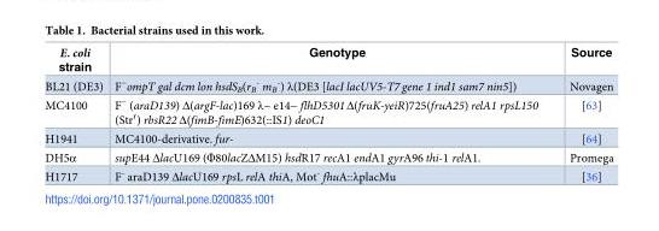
<table><thead><tr><td>E. coli strain</td><td>Genotype</td><td>Source</td></tr></thead><tbody><tr><td>BL21 (DE3)</td><td>F<sup>−</sup>ompT gal dcm lon hsdS<sub>B</sub>(r<sub>B</sub> <sup>-</sup> m<sub>B</sub> <sup>-</sup>) λ(DE3 [lacI lacUV5-T7 gene 1 ind1 sam7 nin5])</td><td>Novagen</td></tr><tr><td>MC4100</td><td>F<sup>−</sup> (araD139) Δ(argF-lac)169 λ− e14− flhD5301Δ(fruK-yeiR)725(fruA25) relA1 rpsL150 (Str<sup>r</sup>) rbsR22 Δ(fimB-fimE)632(::IS1) deoC1</td><td>[63]</td></tr><tr><td>H1941</td><td>MC4100-derivative. fur-</td><td>[64]</td></tr><tr><td>DH5α</td><td>supE44 ΔlacU169 (Φ80lacZΔM15) hsdR17 recA1 endA1 gyrA96 thi-1 relA1.</td><td>Promega</td></tr><tr><td>H1717</td><td>F<sup>-</sup> araD139 ΔlacU169 rpsL relA thiA, Mot<sup>-</sup> fhuA::λplacMu</td><td>[36]</td></tr></tbody></table>